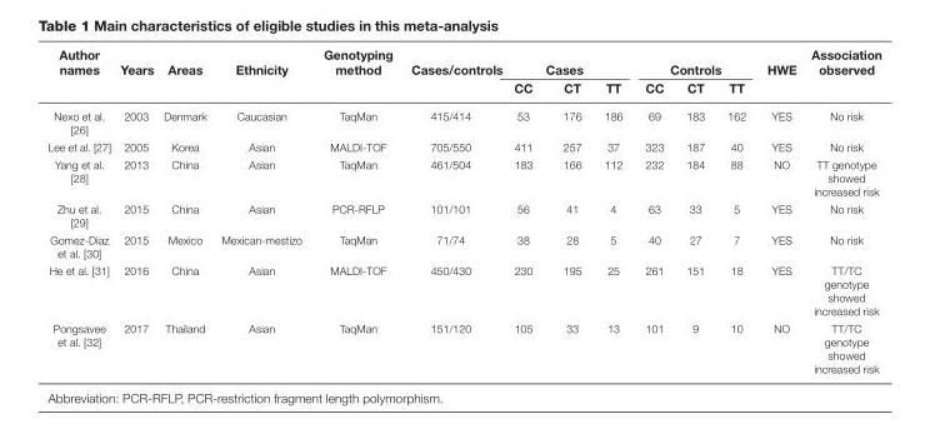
<table><thead><tr><td rowspan="2">Author names</td><td rowspan="2">Years</td><td rowspan="2">Areas</td><td rowspan="2">Ethnicity</td><td rowspan="2">Genotyping method</td><td rowspan="2">Cases/controls</td><td colspan="3">Cases</td><td colspan="3">Controls</td><td rowspan="2">HWE</td><td rowspan="2">Association observed</td></tr><tr><td>CC</td><td>CT</td><td>TT</td><td>CC</td><td>CT</td><td>TT</td></tr></thead><tbody><tr><td>Nexo et al. [26]</td><td>2003</td><td>Denmark</td><td>Caucasian</td><td>TaqMan</td><td>415/414</td><td>53</td><td>176</td><td>186</td><td>69</td><td>183</td><td>162</td><td>YES</td><td>No risk</td></tr><tr><td>Lee et al. [27]</td><td>2005</td><td>Korea</td><td>Asian</td><td>MALDI-TOF</td><td>705/550</td><td>411</td><td>257</td><td>37</td><td>323</td><td>187</td><td>40</td><td>YES</td><td>No risk</td></tr><tr><td>Yang et al. [28]</td><td>2013</td><td>China</td><td>Asian</td><td>TaqMan</td><td>461/504</td><td>183</td><td>166</td><td>112</td><td>232</td><td>184</td><td>88</td><td>NO</td><td>TT genotype showed increased risk</td></tr><tr><td>Zhu et al. [29]</td><td>2015</td><td>China</td><td>Asian</td><td>PCR-RFLP</td><td>101/101</td><td>56</td><td>41</td><td>4</td><td>63</td><td>33</td><td>5</td><td>YES</td><td>No risk</td></tr><tr><td>Gomez-Diaz et al. [30]</td><td>2015</td><td>Mexico</td><td>Mexican-mestizo</td><td>TaqMan</td><td>71/74</td><td>38</td><td>28</td><td>5</td><td>40</td><td>27</td><td>7</td><td>YES</td><td>No risk</td></tr><tr><td>He et al. [31]</td><td>2016</td><td>China</td><td>Asian</td><td>MALDI-TOF</td><td>450/430</td><td>230</td><td>195</td><td>25</td><td>261</td><td>151</td><td>18</td><td>YES</td><td>TT/TC genotype showed increased risk</td></tr><tr><td>Pongsavee et al. [32]</td><td>2017</td><td>Thailand</td><td>Asian</td><td>TaqMan</td><td>151/120</td><td>105</td><td>33</td><td>13</td><td>101</td><td>9</td><td>10</td><td>NO</td><td>TT/TC genotype showed increased risk</td></tr></tbody></table>